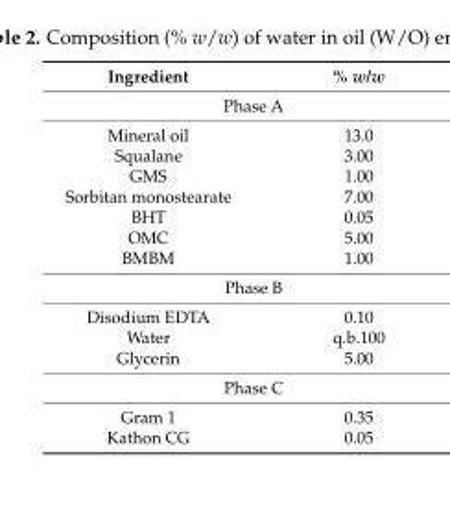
<table><thead><tr><td>Ingredient</td><td>% w/w</td></tr></thead><tbody><tr><td colspan="2">Phase A</td></tr><tr><td>Mineral oil</td><td>13.0</td></tr><tr><td>Squalane</td><td>3.00</td></tr><tr><td>GMS</td><td>1.00</td></tr><tr><td>Sorbitan monostearate</td><td>7.00</td></tr><tr><td>BHT</td><td>0.05</td></tr><tr><td>OMC</td><td>5.00</td></tr><tr><td>BMBM</td><td>1.00</td></tr><tr><td colspan="2">Phase B</td></tr><tr><td>Disodium EDTA</td><td>0.10</td></tr><tr><td>Water</td><td>q.b.100</td></tr><tr><td>Glycerin</td><td>5.00</td></tr><tr><td colspan="2">Phase C</td></tr><tr><td>Gram 1</td><td>0.35</td></tr><tr><td>Kathon CG</td><td>0.05</td></tr></tbody></table>